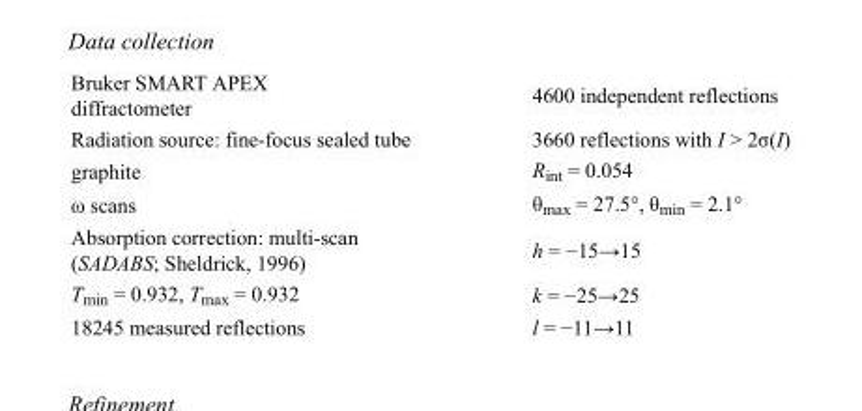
<table><tbody><tr><td>Bruker SMART APEX diffractometer</td><td>4600 independent reflections</td></tr><tr><td>Radiation source: fine-focus sealed tube</td><td>3660 reflections with I &gt; 2σ(I)</td></tr><tr><td>graphite</td><td>R<sub>int</sub> = 0.054</td></tr><tr><td>ω scans</td><td>θ<sub>max</sub> = 27.5°, θ<sub>min</sub> = 2.1°</td></tr><tr><td>Absorption correction: multi-scan (SADABS; Sheldrick, 1996)</td><td>h = −15→15</td></tr><tr><td>T<sub>min</sub> = 0.932, T<sub>max</sub> = 0.932</td><td>k = −25→25</td></tr><tr><td>18245 measured reflections</td><td>l = −11→11</td></tr></tbody></table>